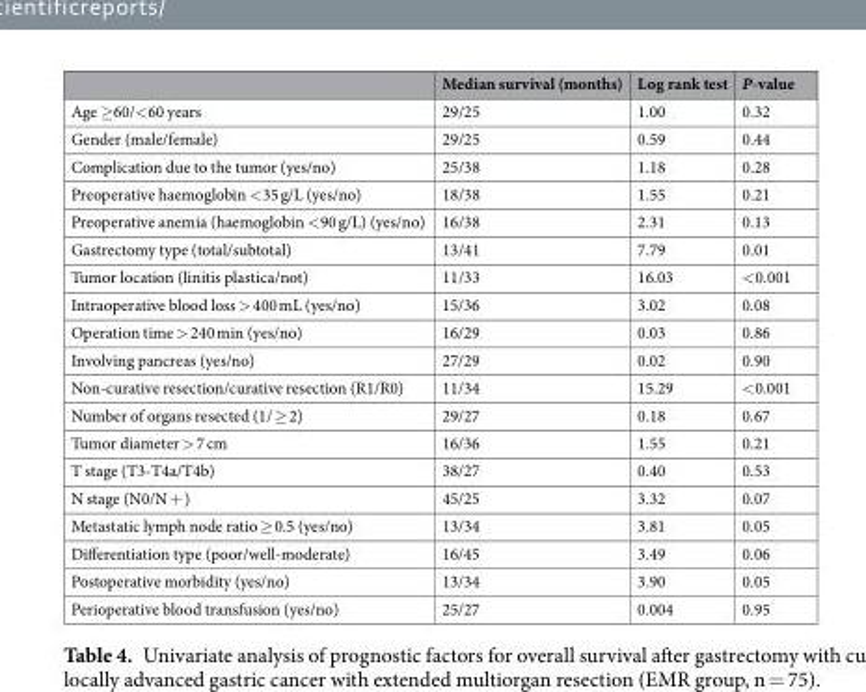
<table><thead><tr><td></td><td>Median survival (months)</td><td>Log rank test</td><td>P-value</td></tr></thead><tbody><tr><td>Age ≥60/&lt;60 years</td><td>29/25</td><td>1.00</td><td>0.32</td></tr><tr><td>Gender (male/female)</td><td>29/25</td><td>0.59</td><td>0.44</td></tr><tr><td>Complication due to the tumor (yes/no)</td><td>25/38</td><td>1.18</td><td>0.28</td></tr><tr><td>Preoperative haemoglobin &lt;35 g/L (yes/no)</td><td>18/38</td><td>1.55</td><td>0.21</td></tr><tr><td>Preoperative anemia (haemoglobin &lt;90 g/L) (yes/no)</td><td>16/38</td><td>2.31</td><td>0.13</td></tr><tr><td>Gastrectomy type (total/subtotal)</td><td>13/41</td><td>7.79</td><td>0.01</td></tr><tr><td>Tumor location (linitis plastica/not)</td><td>11/33</td><td>16.03</td><td>&lt;0.001</td></tr><tr><td>Intraoperative blood loss &gt; 400 mL (yes/no)</td><td>15/36</td><td>3.02</td><td>0.08</td></tr><tr><td>Operation time &gt; 240 min (yes/no)</td><td>16/29</td><td>0.03</td><td>0.86</td></tr><tr><td>Involving pancreas (yes/no)</td><td>27/29</td><td>0.02</td><td>0.90</td></tr><tr><td>Non-curative resection/curative resection (R1/R0)</td><td>11/34</td><td>15.29</td><td>&lt;0.001</td></tr><tr><td>Number of organs resected (1/ ≥ 2)</td><td>29/27</td><td>0.18</td><td>0.67</td></tr><tr><td>Tumor diameter &gt; 7 cm</td><td>16/36</td><td>1.55</td><td>0.21</td></tr><tr><td>T stage (T3-T4a/T4b)</td><td>38/27</td><td>0.40</td><td>0.53</td></tr><tr><td>N stage (N0/N + )</td><td>45/25</td><td>3.32</td><td>0.07</td></tr><tr><td>Metastatic lymph node ratio ≥ 0.5 (yes/no)</td><td>13/34</td><td>3.81</td><td>0.05</td></tr><tr><td>Differentiation type (poor/well-moderate)</td><td>16/45</td><td>3.49</td><td>0.06</td></tr><tr><td>Postoperative morbidity (yes/no)</td><td>13/34</td><td>3.90</td><td>0.05</td></tr><tr><td>Perioperative blood transfusion (yes/no)</td><td>25/27</td><td>0.004</td><td>0.95</td></tr></tbody></table>